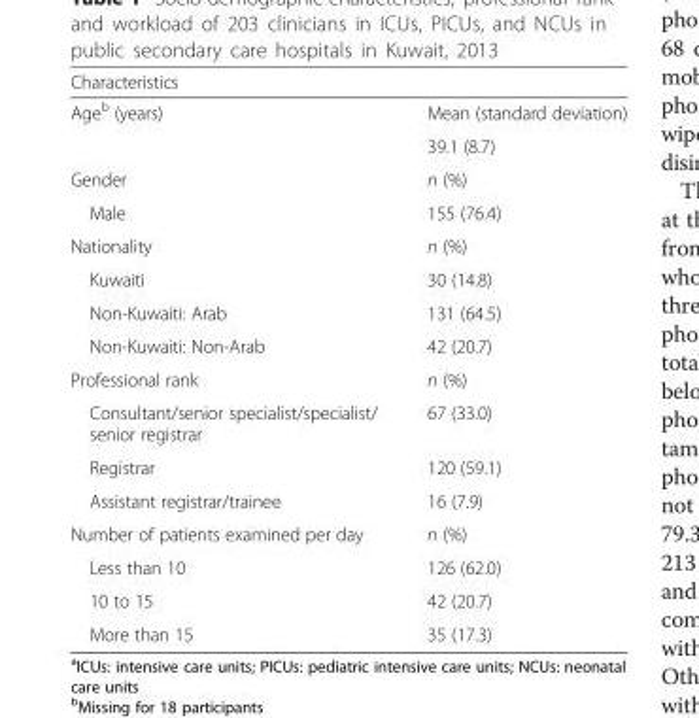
<table><thead><tr><td>Characteristics</td><td></td></tr></thead><tbody><tr><td rowspan="2">Age<sup>b</sup> (years)</td><td>Mean (standard deviation)</td></tr><tr><td>39.1 (8.7)</td></tr><tr><td>Gender</td><td>n (%)</td></tr><tr><td>Male</td><td>155 (76.4)</td></tr><tr><td>Nationality</td><td>n (%)</td></tr><tr><td>Kuwaiti</td><td>30 (14.8)</td></tr><tr><td>Non-Kuwaiti: Arab</td><td>131 (64.5)</td></tr><tr><td>Non-Kuwaiti: Non-Arab</td><td>42 (20.7)</td></tr><tr><td>Professional rank</td><td>n (%)</td></tr><tr><td>Consultant/senior specialist/specialist/ senior registrar</td><td>67 (33.0)</td></tr><tr><td>Registrar</td><td>120 (59.1)</td></tr><tr><td>Assistant registrar/trainee</td><td>16 (7.9)</td></tr><tr><td>Number of patients examined per day</td><td>n (%)</td></tr><tr><td>Less than 10</td><td>126 (62.0)</td></tr><tr><td>10 to 15</td><td>42 (20.7)</td></tr><tr><td>More than 15</td><td>35 (17.3)</td></tr></tbody></table>